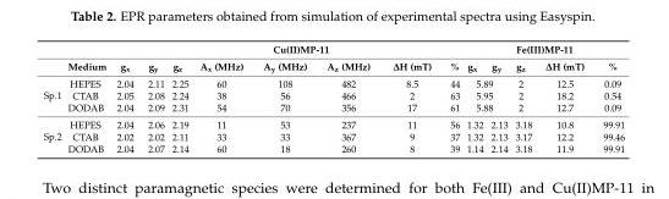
<table><thead><tr><td rowspan="2"></td><td rowspan="2">Medium</td><td rowspan="2">g<sub>x</sub></td><td colspan="7">Cu(II)MP-11</td><td colspan="5">Fe(III)MP-11</td></tr><tr><td>g<sub>y</sub></td><td>g<sub>z</sub></td><td>A<sub>x</sub> (MHz)</td><td>A<sub>y</sub> (MHz)</td><td>A<sub>z</sub> (MHz)</td><td>∆H (mT)</td><td>%</td><td>g<sub>x</sub></td><td>g<sub>y</sub></td><td>g<sub>z</sub></td><td>∆H (mT)</td><td>%</td></tr></thead><tbody><tr><td rowspan="3">Sp.1</td><td>HEPES</td><td>2.04</td><td>2.11</td><td>2.25</td><td>60</td><td>108</td><td>482</td><td>8.5</td><td>44</td><td colspan="2">5.89</td><td>2</td><td>12.5</td><td>0.09</td></tr><tr><td>CTAB</td><td>2.05</td><td>2.08</td><td>2.24</td><td>38</td><td>56</td><td>466</td><td>2</td><td>63</td><td colspan="2">5.95</td><td>2</td><td>18.2</td><td>0.54</td></tr><tr><td>DODAB</td><td>2.04</td><td>2.09</td><td>2.31</td><td>54</td><td>70</td><td>356</td><td>17</td><td>61</td><td colspan="2">5.88</td><td>2</td><td>12.7</td><td>0.09</td></tr><tr><td rowspan="3">Sp.2</td><td>HEPES</td><td>2.04</td><td>2.06</td><td>2.19</td><td>11</td><td>53</td><td>237</td><td>11</td><td>56</td><td>1.32</td><td>2.13</td><td>3.18</td><td>10.8</td><td>99.91</td></tr><tr><td>CTAB</td><td>2.02</td><td>2.02</td><td>2.11</td><td>33</td><td>33</td><td>367</td><td>9</td><td>37</td><td>1.32</td><td>2.13</td><td>3.17</td><td>12.2</td><td>99.46</td></tr><tr><td>DODAB</td><td>2.04</td><td>2.07</td><td>2.14</td><td>60</td><td>18</td><td>260</td><td>8</td><td>39</td><td>1.14</td><td>2.14</td><td>3.18</td><td>11.9</td><td>99.91</td></tr></tbody></table>